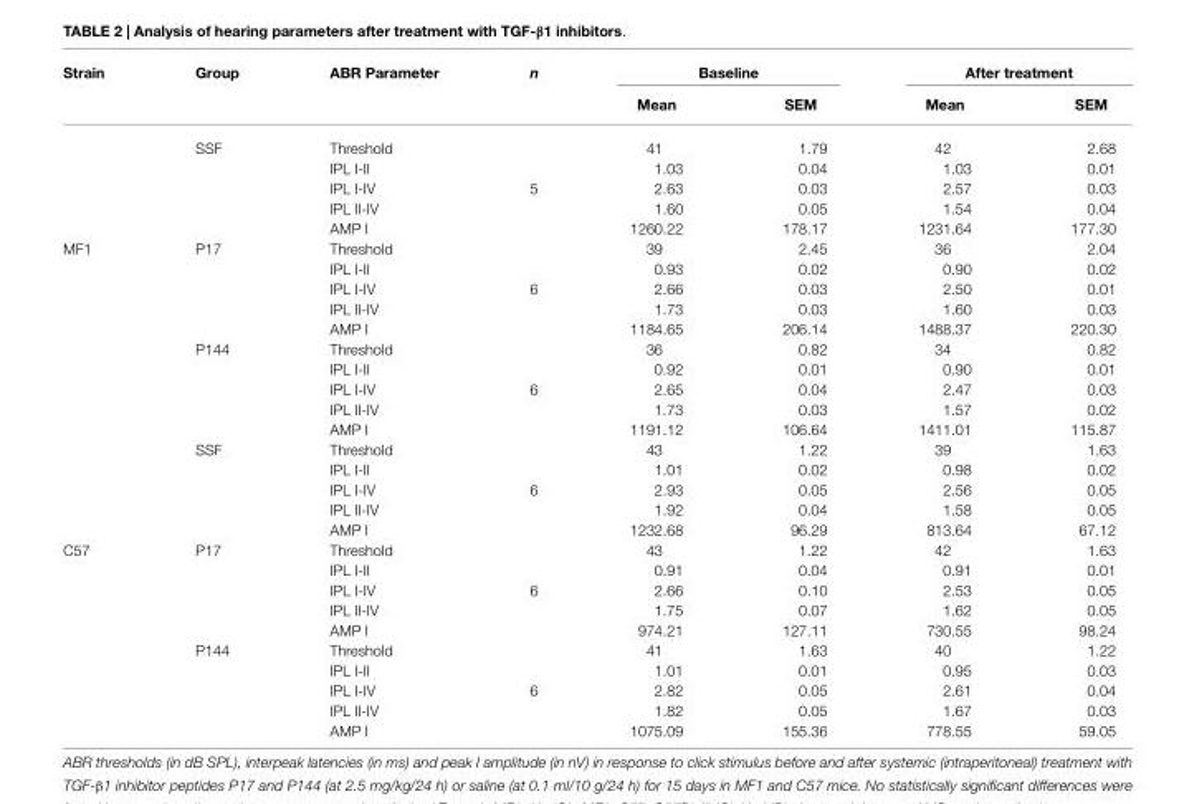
<table><thead><tr><td rowspan="2">Strain</td><td rowspan="2">Group</td><td rowspan="2">ABR Parameter</td><td rowspan="2">n</td><td colspan="2">Baseline</td><td colspan="2">After treatment</td></tr><tr><td>Mean</td><td>SEM</td><td>Mean</td><td>SEM</td></tr></thead><tbody><tr><td></td><td>SSF</td><td>Threshold</td><td></td><td>41</td><td>1.79</td><td>42</td><td>2.68</td></tr><tr><td></td><td></td><td>IPL I-II</td><td></td><td>1.03</td><td>0.04</td><td>1.03</td><td>0.01</td></tr><tr><td></td><td></td><td>IPL I-IV</td><td>5</td><td>2.63</td><td>0.03</td><td>2.57</td><td>0.03</td></tr><tr><td></td><td></td><td>IPL II-IV</td><td></td><td>1.60</td><td>0.05</td><td>1.54</td><td>0.04</td></tr><tr><td></td><td></td><td>AMP I</td><td></td><td>1260.22</td><td>178.17</td><td>1231.64</td><td>177.30</td></tr><tr><td rowspan="15">MF1</td><td>P17</td><td>Threshold</td><td></td><td>39</td><td>2.45</td><td>36</td><td>2.04</td></tr><tr><td></td><td>IPL I-II</td><td></td><td>0.93</td><td>0.02</td><td>0.90</td><td>0.02</td></tr><tr><td></td><td>IPL I-IV</td><td>6</td><td>2.66</td><td>0.03</td><td>2.50</td><td>0.01</td></tr><tr><td></td><td>IPL II-IV</td><td></td><td>1.73</td><td>0.03</td><td>1.60</td><td>0.03</td></tr><tr><td></td><td>AMP I</td><td></td><td>1184.65</td><td>206.14</td><td>1488.37</td><td>220.30</td></tr><tr><td>P144</td><td>Threshold</td><td></td><td>36</td><td>0.82</td><td>34</td><td>0.82</td></tr><tr><td></td><td>IPL I-II</td><td></td><td>0.92</td><td>0.01</td><td>0.90</td><td>0.01</td></tr><tr><td></td><td>IPL I-IV</td><td>6</td><td>2.65</td><td>0.04</td><td>2.47</td><td>0.03</td></tr><tr><td></td><td>IPL II-IV</td><td></td><td>1.73</td><td>0.03</td><td>1.57</td><td>0.02</td></tr><tr><td></td><td>AMP I</td><td></td><td>1191.12</td><td>106.64</td><td>1411.01</td><td>115.87</td></tr><tr><td>SSF</td><td>Threshold</td><td></td><td>43</td><td>1.22</td><td>39</td><td>1.63</td></tr><tr><td></td><td>IPL I-II</td><td></td><td>1.01</td><td>0.02</td><td>0.98</td><td>0.02</td></tr><tr><td></td><td>IPL I-IV</td><td>6</td><td>2.93</td><td>0.05</td><td>2.56</td><td>0.05</td></tr><tr><td></td><td>IPL II-IV</td><td></td><td>1.92</td><td>0.04</td><td>1.58</td><td>0.05</td></tr><tr><td></td><td>AMP I</td><td></td><td>1232.68</td><td>96.29</td><td>813.64</td><td>67.12</td></tr><tr><td rowspan="10">C57</td><td>P17</td><td>Threshold</td><td></td><td>43</td><td>1.22</td><td>42</td><td>1.63</td></tr><tr><td></td><td>IPL I-II</td><td></td><td>0.91</td><td>0.04</td><td>0.91</td><td>0.01</td></tr><tr><td></td><td>IPL I-IV</td><td>6</td><td>2.66</td><td>0.10</td><td>2.53</td><td>0.05</td></tr><tr><td></td><td>IPL II-IV</td><td></td><td>1.75</td><td>0.07</td><td>1.62</td><td>0.05</td></tr><tr><td></td><td>AMP I</td><td></td><td>974.21</td><td>127.11</td><td>730.55</td><td>98.24</td></tr><tr><td>P144</td><td>Threshold</td><td></td><td>41</td><td>1.63</td><td>40</td><td>1.22</td></tr><tr><td></td><td>IPL I-II</td><td></td><td>1.01</td><td>0.01</td><td>0.95</td><td>0.03</td></tr><tr><td></td><td>IPL I-IV</td><td>6</td><td>2.82</td><td>0.05</td><td>2.61</td><td>0.04</td></tr><tr><td></td><td>IPL II-IV</td><td></td><td>1.82</td><td>0.05</td><td>1.67</td><td>0.03</td></tr><tr><td></td><td>AMP I</td><td></td><td>1075.09</td><td>155.36</td><td>778.55</td><td>59.05</td></tr></tbody></table>